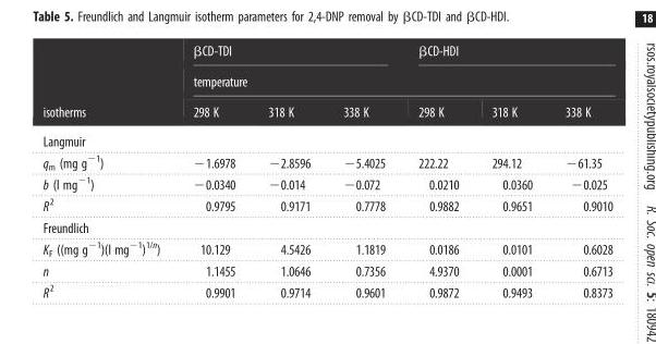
<table><thead><tr><td rowspan="3">isotherms</td><td colspan="3">βCD-TDI</td><td colspan="3">βCD-HDI</td></tr><tr><td colspan="6">temperature</td></tr><tr><td>298 K</td><td>318 K</td><td>338 K</td><td>298 K</td><td>318 K</td><td>338 K</td></tr></thead><tbody><tr><td colspan="7">Langmuir</td></tr><tr><td>q<sub>m</sub> (mg g<sup>−1</sup>)</td><td>−1.6978</td><td>−2.8596</td><td>−5.4025</td><td>222.22</td><td>294.12</td><td>−61.35</td></tr><tr><td>b (l mg<sup>−1</sup>)</td><td>−0.0340</td><td>−0.014</td><td>−0.072</td><td>0.0210</td><td>0.0360</td><td>−0.025</td></tr><tr><td>R<sup>2</sup></td><td>0.9795</td><td>0.9171</td><td>0.7778</td><td>0.9882</td><td>0.9651</td><td>0.9010</td></tr><tr><td colspan="7">Freundlich</td></tr><tr><td>K<sub>F</sub> ((mg g<sup>−1</sup>)(l mg<sup>−1</sup>)<sup>1/n</sup>)</td><td>10.129</td><td>4.5426</td><td>1.1819</td><td>0.0186</td><td>0.0101</td><td>0.6028</td></tr><tr><td>n</td><td>1.1455</td><td>1.0646</td><td>0.7356</td><td>4.9370</td><td>0.0001</td><td>0.6713</td></tr><tr><td>R<sup>2</sup></td><td>0.9901</td><td>0.9714</td><td>0.9601</td><td>0.9872</td><td>0.9493</td><td>0.8373</td></tr></tbody></table>